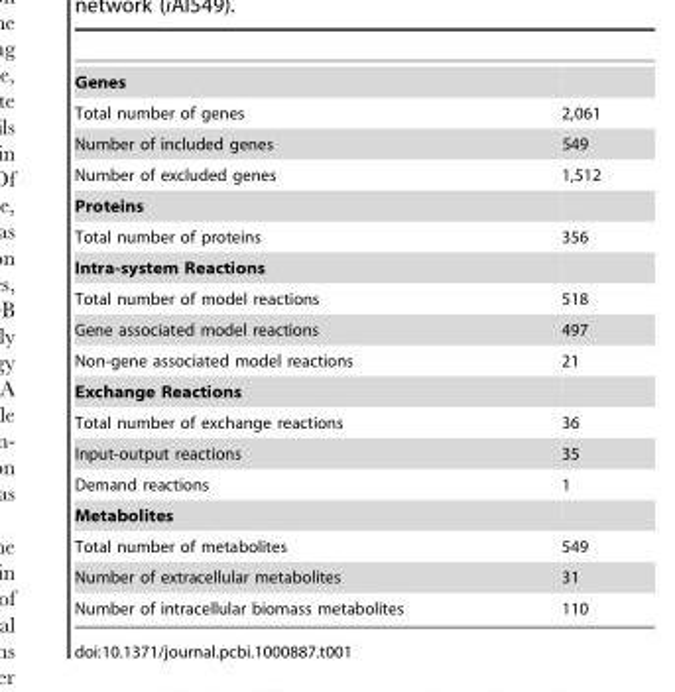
<table><tbody><tr><td colspan="2">Genes</td></tr><tr><td>Total number of genes</td><td>2,061</td></tr><tr><td>Number of included genes</td><td>549</td></tr><tr><td>Number of excluded genes</td><td>1,512</td></tr><tr><td colspan="2">Proteins</td></tr><tr><td>Total number of proteins</td><td>356</td></tr><tr><td colspan="2">Intra-system Reactions</td></tr><tr><td>Total number of model reactions</td><td>518</td></tr><tr><td>Gene associated model reactions</td><td>497</td></tr><tr><td>Non-gene associated model reactions</td><td>21</td></tr><tr><td colspan="2">Exchange Reactions</td></tr><tr><td>Total number of exchange reactions</td><td>36</td></tr><tr><td>Input-output reactions</td><td>35</td></tr><tr><td>Demand reactions</td><td>1</td></tr><tr><td colspan="2">Metabolites</td></tr><tr><td>Total number of metabolites</td><td>549</td></tr><tr><td>Number of extracellular metabolites</td><td>31</td></tr><tr><td>Number of intracellular biomass metabolites</td><td>110</td></tr></tbody></table>